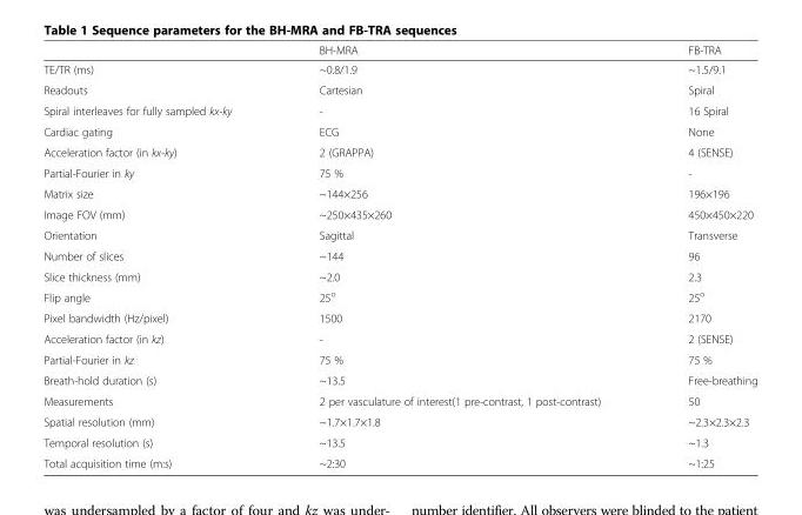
<table><thead><tr><td></td><td>BH-MRA</td><td>FB-TRA</td></tr></thead><tbody><tr><td>TE/TR (ms)</td><td>~0.8/1.9</td><td>~1.5/9.1</td></tr><tr><td>Readouts</td><td>Cartesian</td><td>Spiral</td></tr><tr><td>Spiral interleaves for fully sampled kx-ky</td><td>-</td><td>16 Spiral</td></tr><tr><td>Cardiac gating</td><td>ECG</td><td>None</td></tr><tr><td>Acceleration factor (in kx-ky)</td><td>2 (GRAPPA)</td><td>4 (SENSE)</td></tr><tr><td>Partial-Fourier in ky</td><td>75 %</td><td>-</td></tr><tr><td>Matrix size</td><td>~144×256</td><td>196×196</td></tr><tr><td>Image FOV (mm)</td><td>~250×435×260</td><td>450×450×220</td></tr><tr><td>Orientation</td><td>Sagittal</td><td>Transverse</td></tr><tr><td>Number of slices</td><td>~144</td><td>96</td></tr><tr><td>Slice thickness (mm)</td><td>~2.0</td><td>2.3</td></tr><tr><td>Flip angle</td><td>25<sup>o</sup></td><td>25<sup>o</sup></td></tr><tr><td>Pixel bandwidth (Hz/pixel)</td><td>1500</td><td>2170</td></tr><tr><td>Acceleration factor (in kz)</td><td>-</td><td>2 (SENSE)</td></tr><tr><td>Partial-Fourier in kz</td><td>75 %</td><td>75 %</td></tr><tr><td>Breath-hold duration (s)</td><td>~13.5</td><td>Free-breathing</td></tr><tr><td>Measurements</td><td>2 per vasculature of interest(1 pre-contrast, 1 post-contrast)</td><td>50</td></tr><tr><td>Spatial resolution (mm)</td><td>~1.7×1.7×1.8</td><td>~2.3×2.3×2.3</td></tr><tr><td>Temporal resolution (s)</td><td>~13.5</td><td>~1.3</td></tr><tr><td>Total acquisition time (m:s)</td><td>~2:30</td><td>~1:25</td></tr></tbody></table>